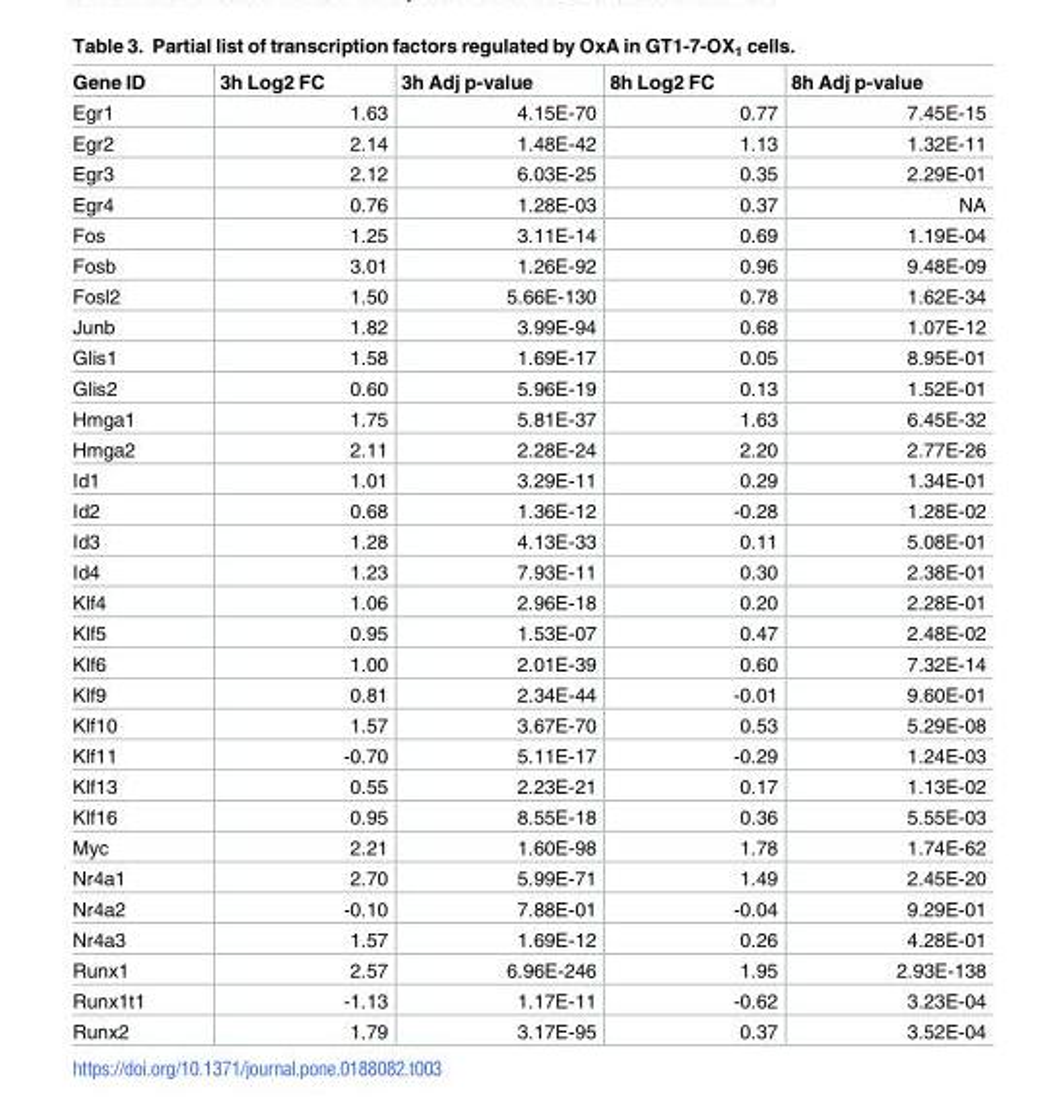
<table><thead><tr><td>Gene ID</td><td>3h Log2 FC</td><td>3h Adj p-value</td><td>8h Log2 FC</td><td>8h Adj p-value</td></tr></thead><tbody><tr><td>Egr1</td><td>1.63</td><td>4.15E-70</td><td>0.77</td><td>7.45E-15</td></tr><tr><td>Egr2</td><td>2.14</td><td>1.48E-42</td><td>1.13</td><td>1.32E-11</td></tr><tr><td>Egr3</td><td>2.12</td><td>6.03E-25</td><td>0.35</td><td>2.29E-01</td></tr><tr><td>Egr4</td><td>0.76</td><td>1.28E-03</td><td>0.37</td><td>NA</td></tr><tr><td>Fos</td><td>1.25</td><td>3.11E-14</td><td>0.69</td><td>1.19E-04</td></tr><tr><td>Fosb</td><td>3.01</td><td>1.26E-92</td><td>0.96</td><td>9.48E-09</td></tr><tr><td>Fosl2</td><td>1.50</td><td>5.66E-130</td><td>0.78</td><td>1.62E-34</td></tr><tr><td>Junb</td><td>1.82</td><td>3.99E-94</td><td>0.68</td><td>1.07E-12</td></tr><tr><td>Glis1</td><td>1.58</td><td>1.69E-17</td><td>0.05</td><td>8.95E-01</td></tr><tr><td>Glis2</td><td>0.60</td><td>5.96E-19</td><td>0.13</td><td>1.52E-01</td></tr><tr><td>Hmga1</td><td>1.75</td><td>5.81E-37</td><td>1.63</td><td>6.45E-32</td></tr><tr><td>Hmga2</td><td>2.11</td><td>2.28E-24</td><td>2.20</td><td>2.77E-26</td></tr><tr><td>Id1</td><td>1.01</td><td>3.29E-11</td><td>0.29</td><td>1.34E-01</td></tr><tr><td>Id2</td><td>0.68</td><td>1.36E-12</td><td>-0.28</td><td>1.28E-02</td></tr><tr><td>Id3</td><td>1.28</td><td>4.13E-33</td><td>0.11</td><td>5.08E-01</td></tr><tr><td>Id4</td><td>1.23</td><td>7.93E-11</td><td>0.30</td><td>2.38E-01</td></tr><tr><td>Klf4</td><td>1.06</td><td>2.96E-18</td><td>0.20</td><td>2.28E-01</td></tr><tr><td>Klf5</td><td>0.95</td><td>1.53E-07</td><td>0.47</td><td>2.48E-02</td></tr><tr><td>Klf6</td><td>1.00</td><td>2.01E-39</td><td>0.60</td><td>7.32E-14</td></tr><tr><td>Klf9</td><td>0.81</td><td>2.34E-44</td><td>-0.01</td><td>9.60E-01</td></tr><tr><td>Klf10</td><td>1.57</td><td>3.67E-70</td><td>0.53</td><td>5.29E-08</td></tr><tr><td>Klf11</td><td>-0.70</td><td>5.11E-17</td><td>-0.29</td><td>1.24E-03</td></tr><tr><td>Klf13</td><td>0.55</td><td>2.23E-21</td><td>0.17</td><td>1.13E-02</td></tr><tr><td>Klf16</td><td>0.95</td><td>8.55E-18</td><td>0.36</td><td>5.55E-03</td></tr><tr><td>Myc</td><td>2.21</td><td>1.60E-98</td><td>1.78</td><td>1.74E-62</td></tr><tr><td>Nr4a1</td><td>2.70</td><td>5.99E-71</td><td>1.49</td><td>2.45E-20</td></tr><tr><td>Nr4a2</td><td>-0.10</td><td>7.88E-01</td><td>-0.04</td><td>9.29E-01</td></tr><tr><td>Nr4a3</td><td>1.57</td><td>1.69E-12</td><td>0.26</td><td>4.28E-01</td></tr><tr><td>Runx1</td><td>2.57</td><td>6.96E-246</td><td>1.95</td><td>2.93E-138</td></tr><tr><td>Runx1t1</td><td>-1.13</td><td>1.17E-11</td><td>-0.62</td><td>3.23E-04</td></tr><tr><td>Runx2</td><td>1.79</td><td>3.17E-95</td><td>0.37</td><td>3.52E-04</td></tr></tbody></table>